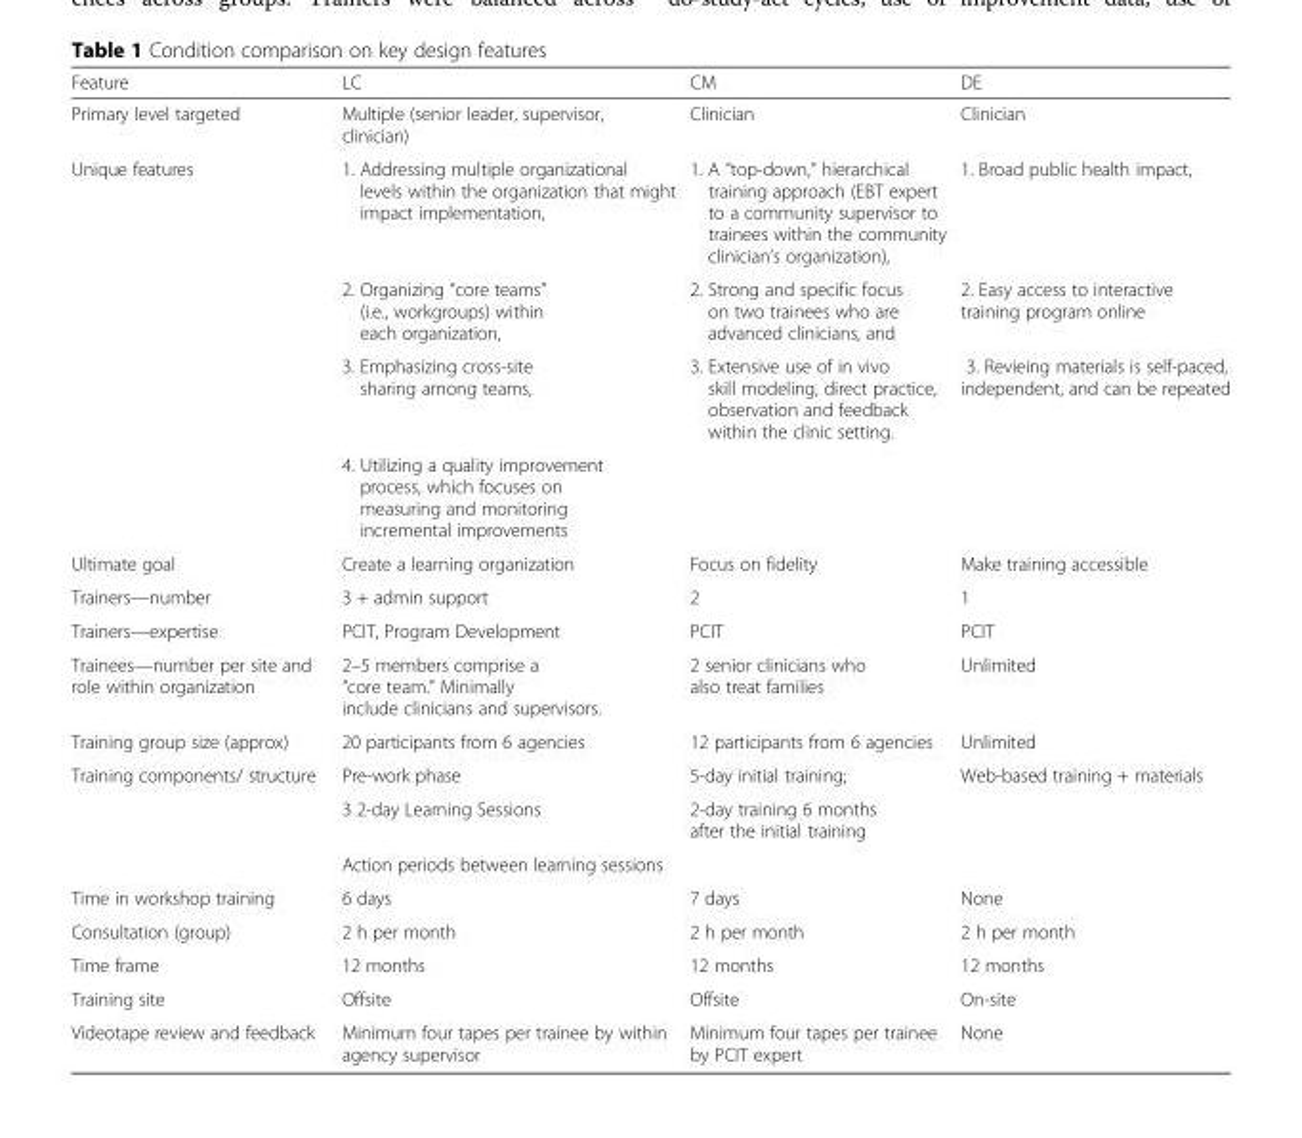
<table><thead><tr><td>Feature</td><td>LC</td><td>CM</td><td>DE</td></tr></thead><tbody><tr><td>Primary level targeted</td><td>Multiple (senior leader, supervisor, clinician)</td><td>Clinician</td><td>Clinician</td></tr><tr><td rowspan="4">Unique features</td><td>1. Addressing multiple organizational levels within the organization that might impact implementation,</td><td>1. A “top-down,” hierarchical training approach (EBT expert to a community supervisor to trainees within the community clinician’s organization),</td><td>1. Broad public health impact,</td></tr><tr><td>2. Organizing “core teams” (i.e., workgroups) within each organization,</td><td>2. Strong and specific focus on two trainees who are advanced clinicians, and</td><td>2. Easy access to interactive training program online</td></tr><tr><td>3. Emphasizing cross-site sharing among teams,</td><td>3. Extensive use of in vivo skill modeling, direct practice, observation and feedback within the clinic setting.</td><td rowspan="2">3. Revieing materials is self-paced, independent, and can be repeated</td></tr><tr><td>4. Utilizing a quality improvement process, which focuses on measuring and monitoring incremental improvements</td><td></td></tr><tr><td>Ultimate goal</td><td>Create a learning organization</td><td>Focus on fidelity</td><td>Make training accessible</td></tr><tr><td>Trainers—number</td><td>3 + admin support</td><td>2</td><td>1</td></tr><tr><td>Trainers—expertise</td><td>PCIT, Program Development</td><td>PCIT</td><td>PCIT</td></tr><tr><td>Trainees—number per site and role within organization</td><td>2–5 members comprise a “core team.” Minimally include clinicians and supervisors.</td><td>2 senior clinicians who also treat families</td><td>Unlimited</td></tr><tr><td>Training group size (approx)</td><td>20 participants from 6 agencies</td><td>12 participants from 6 agencies</td><td>Unlimited</td></tr><tr><td rowspan="3">Training components/ structure</td><td>Pre-work phase</td><td>5-day initial training;</td><td rowspan="3">Web-based training + materials</td></tr><tr><td>3 2-day Learning Sessions</td><td>2-day training 6 months after the initial training</td></tr><tr><td>Action periods between learning sessions</td><td></td></tr><tr><td>Time in workshop training</td><td>6 days</td><td>7 days</td><td>None</td></tr><tr><td>Consultation (group)</td><td>2 h per month</td><td>2 h per month</td><td>2 h per month</td></tr><tr><td>Time frame</td><td>12 months</td><td>12 months</td><td>12 months</td></tr><tr><td>Training site</td><td>Offsite</td><td>Offsite</td><td>On-site</td></tr><tr><td>Videotape review and feedback</td><td>Minimum four tapes per trainee by within agency supervisor</td><td>Minimum four tapes per trainee by PCIT expert</td><td>None</td></tr></tbody></table>